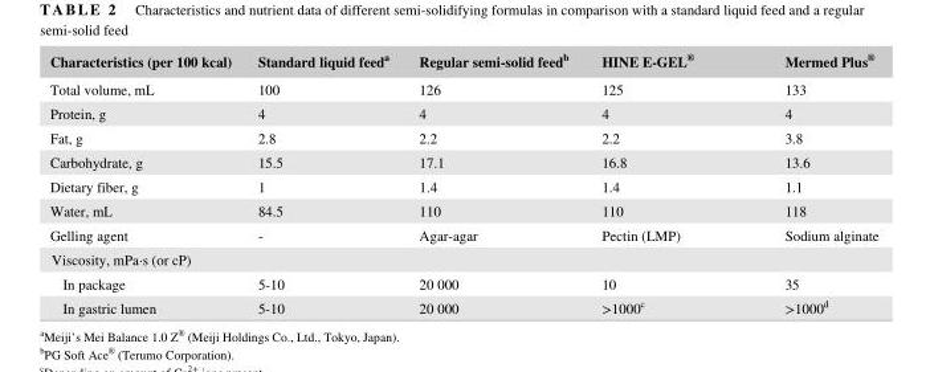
<table><thead><tr><td>Characteristics (per 100 kcal)</td><td>Standard liquid feed<sup>a</sup></td><td>Regular semi-solid feed<sup>b</sup></td><td>HINE E- GEL<sup>Ⓡ</sup></td><td>Mermed Plus<sup>Ⓡ</sup></td></tr></thead><tbody><tr><td>Total volume, mL</td><td>100</td><td>126</td><td>125</td><td>133</td></tr><tr><td>Protein, g</td><td>4</td><td>4</td><td>4</td><td>4</td></tr><tr><td>Fat, g</td><td>2.8</td><td>2.2</td><td>2.2</td><td>3.8</td></tr><tr><td>Carbohydrate, g</td><td>15.5</td><td>17.1</td><td>16.8</td><td>13.6</td></tr><tr><td>Dietary fiber, g</td><td>1</td><td>1.4</td><td>1.4</td><td>1.1</td></tr><tr><td>Water, mL</td><td>84.5</td><td>110</td><td>110</td><td>118</td></tr><tr><td>Gelling agent</td><td>-</td><td>Agar- agar</td><td>Pectin (LMP)</td><td>Sodium alginate</td></tr><tr><td colspan="5">Viscosity, mPa·s (or cP)</td></tr><tr><td>In package</td><td>5- 10</td><td>20 000</td><td>10</td><td>35</td></tr><tr><td>In gastric lumen</td><td>5- 10</td><td>20 000</td><td>&gt;1000<sup>c</sup></td><td>&gt;1000<sup>d</sup></td></tr></tbody></table>